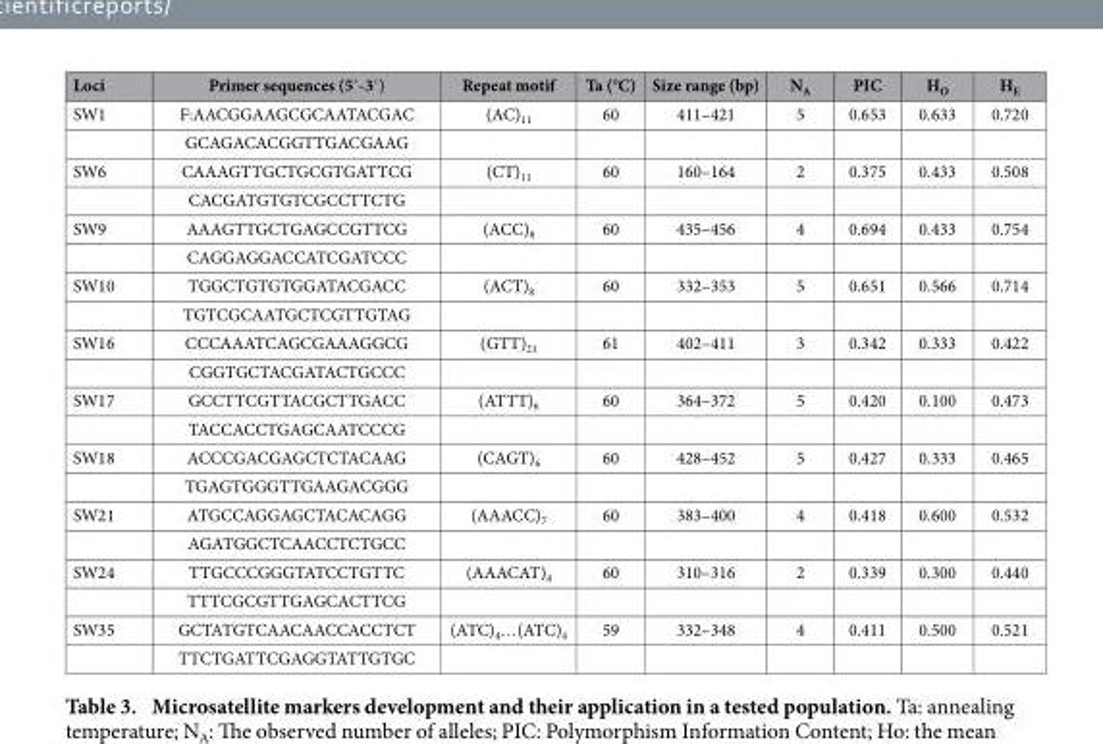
<table><thead><tr><td>Loci</td><td>Primer sequences (5′ -3′ )</td><td>Repeat motif</td><td>Ta (°C)</td><td>Size range (bp)</td><td>N<sub>A</sub></td><td>PIC</td><td>H<sub>O</sub></td><td>H<sub>E</sub></td></tr></thead><tbody><tr><td rowspan="2">SW1</td><td>F:AACGGAAGCGCAATACGAC</td><td>(AC)<sub>11</sub></td><td>60</td><td>411–421</td><td>5</td><td>0.653</td><td>0.633</td><td>0.720</td></tr><tr><td>GCAGACACGGTTGACGAAG</td><td></td><td></td><td></td><td></td><td></td><td></td><td></td></tr><tr><td rowspan="2">SW6</td><td>CAAAGTTGCTGCGTGATTCG</td><td>(CT)<sub>11</sub></td><td>60</td><td>160–164</td><td>2</td><td>0.375</td><td>0.433</td><td>0.508</td></tr><tr><td>CACGATGTGTCGCCTTCTG</td><td></td><td></td><td></td><td></td><td></td><td></td><td></td></tr><tr><td rowspan="2">SW9</td><td>AAAGTTGCTGAGCCGTTCG</td><td>(ACC)<sub>8</sub></td><td>60</td><td>435–456</td><td>4</td><td>0.694</td><td>0.433</td><td>0.754</td></tr><tr><td>CAGGAGGACCATCGATCCC</td><td></td><td></td><td></td><td></td><td></td><td></td><td></td></tr><tr><td rowspan="2">SW10</td><td>TGGCTGTGTGGATACGACC</td><td>(ACT)<sub>8</sub></td><td>60</td><td>332–353</td><td>5</td><td>0.651</td><td>0.566</td><td>0.714</td></tr><tr><td>TGTCGCAATGCTCGTTGTAG</td><td></td><td></td><td></td><td></td><td></td><td></td><td></td></tr><tr><td rowspan="2">SW16</td><td>CCCAAATCAGCGAAAGGCG</td><td>(GTT)<sub>21</sub></td><td>61</td><td>402–411</td><td>3</td><td>0.342</td><td>0.333</td><td>0.422</td></tr><tr><td>CGGTGCTACGATACTGCCC</td><td></td><td></td><td></td><td></td><td></td><td></td><td></td></tr><tr><td rowspan="2">SW17</td><td>GCCTTCGTTACGCTTGACC</td><td>(ATTT)<sub>6</sub></td><td>60</td><td>364–372</td><td>5</td><td>0.420</td><td>0.100</td><td>0.473</td></tr><tr><td>TACCACCTGAGCAATCCCG</td><td></td><td></td><td></td><td></td><td></td><td></td><td></td></tr><tr><td rowspan="2">SW18</td><td>ACCCGACGAGCTCTACAAG</td><td>(CAGT)<sub>6</sub></td><td>60</td><td>428–452</td><td>5</td><td>0.427</td><td>0.333</td><td>0.465</td></tr><tr><td>TGAGTGGGTTGAAGACGGG</td><td></td><td></td><td></td><td></td><td></td><td></td><td></td></tr><tr><td rowspan="2">SW21</td><td>ATGCCAGGAGCTACACAGG</td><td>(AAACC)<sub>7</sub></td><td>60</td><td>383–400</td><td>4</td><td>0.418</td><td>0.600</td><td>0.532</td></tr><tr><td>AGATGGCTCAACCTCTGCC</td><td></td><td></td><td></td><td></td><td></td><td></td><td></td></tr><tr><td rowspan="2">SW24</td><td>TTGCCCGGGTATCCTGTTC</td><td>(AAACAT)<sub>4</sub></td><td>60</td><td>310–316</td><td>2</td><td>0.339</td><td>0.300</td><td>0.440</td></tr><tr><td>TTTCGCGTTGAGCACTTCG</td><td></td><td></td><td></td><td></td><td></td><td></td><td></td></tr><tr><td rowspan="2">SW35</td><td>GCTATGTCAACAACCACCTCT</td><td>(ATC)<sub>4</sub>…(ATC)<sub>4</sub></td><td>59</td><td>332–348</td><td>4</td><td>0.411</td><td>0.500</td><td>0.521</td></tr><tr><td>TTCTGATTCGAGGTATTGTGC</td><td></td><td></td><td></td><td></td><td></td><td></td><td></td></tr></tbody></table>